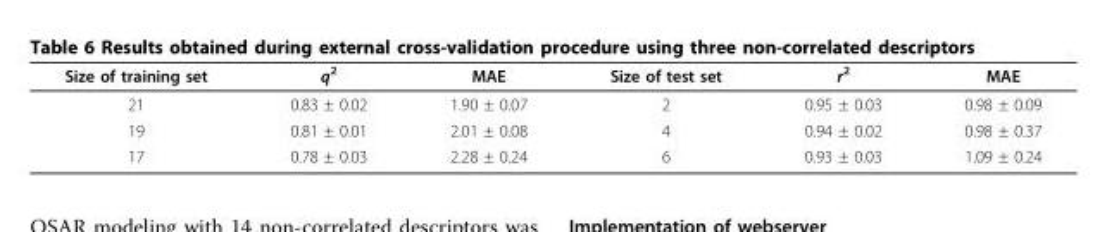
<table><thead><tr><td>Size of training set</td><td>q<sup>2</sup></td><td>MAE</td><td>Size of test set</td><td>r<sup>2</sup></td><td>MAE</td></tr></thead><tbody><tr><td>21</td><td>0.83 ± 0.02</td><td>1.90 ± 0.07</td><td>2</td><td>0.95 ± 0.03</td><td>0.98 ± 0.09</td></tr><tr><td>19</td><td>0.81 ± 0.01</td><td>2.01 ± 0.08</td><td>4</td><td>0.94 ± 0.02</td><td>0.98 ± 0.37</td></tr><tr><td>17</td><td>0.78 ± 0.03</td><td>2.28 ± 0.24</td><td>6</td><td>0.93 ± 0.03</td><td>1.09 ± 0.24</td></tr></tbody></table>